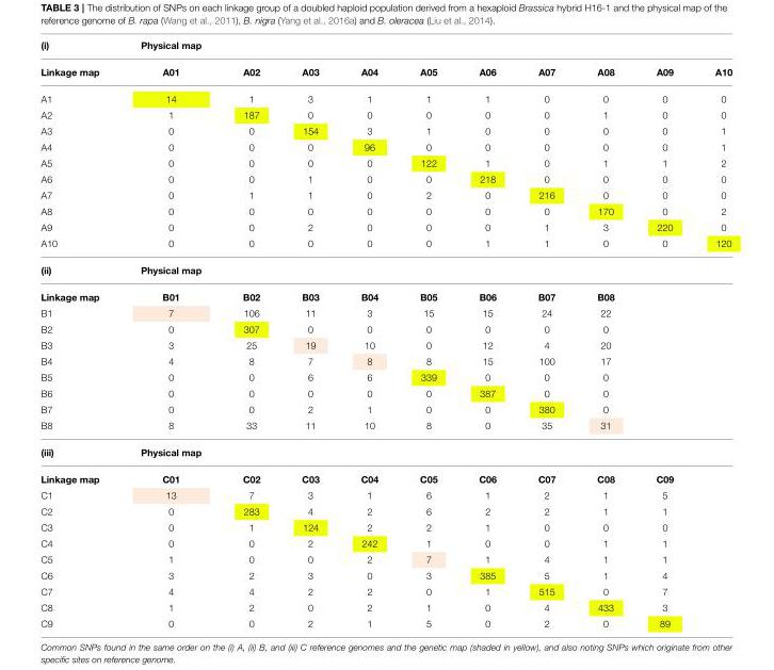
<table><thead><tr><td>(i)</td><td>Physical map</td><td></td><td></td><td></td><td></td><td></td><td></td><td></td><td></td><td></td></tr></thead><tbody><tr><td>Linkage map</td><td>A01</td><td>A02</td><td>A03</td><td>A04</td><td>A05</td><td>A06</td><td>A07</td><td>A08</td><td>A09</td><td>A10</td></tr><tr><td>A1</td><td>14</td><td>1</td><td>3</td><td>1</td><td>1</td><td>1</td><td>0</td><td>0</td><td>0</td><td>0</td></tr><tr><td>A2</td><td>1</td><td>187</td><td>0</td><td>0</td><td>0</td><td>0</td><td>0</td><td>1</td><td>0</td><td>0</td></tr><tr><td>A3</td><td>0</td><td>0</td><td>154</td><td>3</td><td>1</td><td>0</td><td>0</td><td>0</td><td>0</td><td>1</td></tr><tr><td>A4</td><td>0</td><td>0</td><td>0</td><td>96</td><td>0</td><td>0</td><td>0</td><td>0</td><td>0</td><td>1</td></tr><tr><td>A5</td><td>0</td><td>0</td><td>0</td><td>0</td><td>122</td><td>1</td><td>0</td><td>1</td><td>1</td><td>2</td></tr><tr><td>A6</td><td>0</td><td>0</td><td>1</td><td>0</td><td>0</td><td>218</td><td>0</td><td>0</td><td>0</td><td>0</td></tr><tr><td>A7</td><td>0</td><td>1</td><td>1</td><td>0</td><td>2</td><td>0</td><td>216</td><td>0</td><td>0</td><td>0</td></tr><tr><td>A8</td><td>0</td><td>0</td><td>0</td><td>0</td><td>0</td><td>0</td><td>0</td><td>170</td><td>0</td><td>2</td></tr><tr><td>A9</td><td>0</td><td>0</td><td>2</td><td>0</td><td>0</td><td>0</td><td>1</td><td>3</td><td>220</td><td>0</td></tr><tr><td>A10</td><td>0</td><td>0</td><td>0</td><td>0</td><td>0</td><td>1</td><td>1</td><td>0</td><td>0</td><td>120</td></tr><tr><td>(ii)</td><td>Physical map</td><td></td><td></td><td></td><td></td><td></td><td></td><td></td><td></td><td></td></tr><tr><td>Linkage map</td><td>B01</td><td>B02</td><td>B03</td><td>B04</td><td>B05</td><td>B06</td><td>B07</td><td>B08</td><td></td><td></td></tr><tr><td>B1</td><td>7</td><td>106</td><td>11</td><td>3</td><td>15</td><td>15</td><td>24</td><td>22</td><td></td><td></td></tr><tr><td>B2</td><td>0</td><td>307</td><td>0</td><td>0</td><td>0</td><td>0</td><td>0</td><td>0</td><td></td><td></td></tr><tr><td>B3</td><td>3</td><td>25</td><td>19</td><td>10</td><td>0</td><td>12</td><td>4</td><td>20</td><td></td><td></td></tr><tr><td>B4</td><td>4</td><td>8</td><td>7</td><td>8</td><td>8</td><td>15</td><td>100</td><td>17</td><td></td><td></td></tr><tr><td>B5</td><td>0</td><td>0</td><td>6</td><td>6</td><td>339</td><td>0</td><td>0</td><td>0</td><td></td><td></td></tr><tr><td>B6</td><td>0</td><td>0</td><td>0</td><td>0</td><td>0</td><td>387</td><td>0</td><td>0</td><td></td><td></td></tr><tr><td>B7</td><td>0</td><td>0</td><td>2</td><td>1</td><td>0</td><td>0</td><td>380</td><td>0</td><td></td><td></td></tr><tr><td>B8</td><td>8</td><td>33</td><td>11</td><td>10</td><td>8</td><td>0</td><td>35</td><td>31</td><td></td><td></td></tr><tr><td>(iii)</td><td>Physical map</td><td></td><td></td><td></td><td></td><td></td><td></td><td></td><td></td><td></td></tr><tr><td>Linkage map</td><td>C01</td><td>C02</td><td>C03</td><td>C04</td><td>C05</td><td>C06</td><td>C07</td><td>C08</td><td>C09</td><td></td></tr><tr><td>C1</td><td>13</td><td>7</td><td>3</td><td>1</td><td>6</td><td>1</td><td>2</td><td>1</td><td>5</td><td></td></tr><tr><td>C2</td><td>0</td><td>283</td><td>4</td><td>2</td><td>6</td><td>2</td><td>2</td><td>1</td><td>1</td><td></td></tr><tr><td>C3</td><td>0</td><td>1</td><td>124</td><td>2</td><td>2</td><td>1</td><td>0</td><td>0</td><td>0</td><td></td></tr><tr><td>C4</td><td>0</td><td>0</td><td>2</td><td>242</td><td>1</td><td>0</td><td>0</td><td>1</td><td>1</td><td></td></tr><tr><td>C5</td><td>1</td><td>0</td><td>0</td><td>2</td><td>7</td><td>1</td><td>4</td><td>1</td><td>1</td><td></td></tr><tr><td>C6</td><td>3</td><td>2</td><td>3</td><td>0</td><td>3</td><td>385</td><td>5</td><td>1</td><td>4</td><td></td></tr><tr><td>C7</td><td>4</td><td>4</td><td>2</td><td>2</td><td>0</td><td>1</td><td>515</td><td>0</td><td>7</td><td></td></tr><tr><td>C8</td><td>1</td><td>2</td><td>0</td><td>2</td><td>1</td><td>0</td><td>4</td><td>433</td><td>3</td><td></td></tr><tr><td>C9</td><td>0</td><td>0</td><td>2</td><td>1</td><td>5</td><td>0</td><td>2</td><td>0</td><td>89</td><td></td></tr></tbody></table>